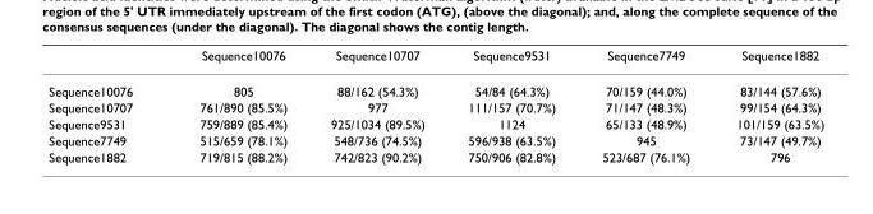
<table><thead><tr><td></td><td>Sequence10076</td><td>Sequence10707</td><td>Sequence9531</td><td>Sequence7749</td><td>Sequence1882</td></tr></thead><tbody><tr><td>Sequence10076</td><td>805</td><td>88/162 (54.3%)</td><td>54/84 (64.3%)</td><td>70/159 (44.0%)</td><td>83/144 (57.6%)</td></tr><tr><td>Sequence10707</td><td>761/890 (85.5%)</td><td>977</td><td>111/157 (70.7%)</td><td>71/147 (48.3%)</td><td>99/154 (64.3%)</td></tr><tr><td>Sequence9531</td><td>759/889 (85.4%)</td><td>925/1034 (89.5%)</td><td>1124</td><td>65/133 (48.9%)</td><td>101/159 (63.5%)</td></tr><tr><td>Sequence7749</td><td>515/659 (78.1%)</td><td>548/736 (74.5%)</td><td>596/938 (63.5%)</td><td>945</td><td>73/147 (49.7%)</td></tr><tr><td>Sequence1882</td><td>719/815 (88.2%)</td><td>742/823 (90.2%)</td><td>750/906 (82.8%)</td><td>523/687 (76.1%)</td><td>796</td></tr></tbody></table>